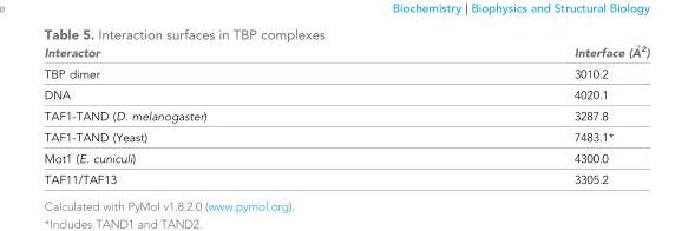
<table><thead><tr><td>Interactor</td><td>Interface (A˚ 2)</td></tr></thead><tbody><tr><td>TBP dimer</td><td>3010.2</td></tr><tr><td>DNA</td><td>4020.1</td></tr><tr><td>TAF1-TAND (D. melanogaster)</td><td>3287.8</td></tr><tr><td>TAF1-TAND (Yeast)</td><td>7483.1*</td></tr><tr><td>Mot1 (E. cuniculi)</td><td>4300.0</td></tr><tr><td>TAF11/TAF13</td><td>3305.2</td></tr></tbody></table>